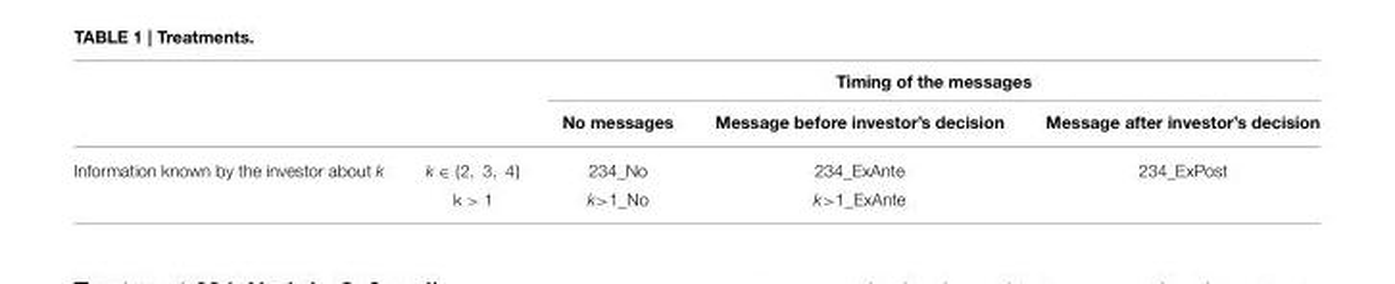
<table><thead><tr><td rowspan="2"></td><td rowspan="2"></td><td colspan="3">Timing of the messages</td></tr><tr><td>No messages</td><td>Message before investor’s decision</td><td>Message after investor’s decision</td></tr></thead><tbody><tr><td rowspan="2">Information known by the investor about k</td><td>k ∈ {2, 3, 4}</td><td>234_No</td><td>234_ExAnte</td><td>234_ExPost</td></tr><tr><td>k &gt; 1</td><td>k&gt;1_No</td><td>k&gt;1_ExAnte</td><td></td></tr></tbody></table>